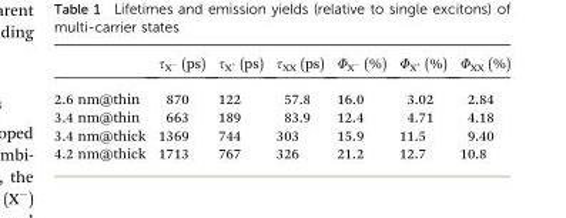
<table><thead><tr><td></td><td>τ<sub>X</sub><sup><sub>–</sub></sup> (ps)</td><td>τ<sub>X</sub><sup><sub>+</sub></sup> (ps)</td><td>τ<sub>XX</sub> (ps)</td><td>Φ<sub>X</sub><sup><sub>–</sub></sup> (%)</td><td>Φ<sub>X</sub><sup><sub>+</sub></sup> (%)</td><td>Φ<sub>XX</sub> (%)</td></tr></thead><tbody><tr><td>2.6 nm@thin</td><td>870</td><td>122</td><td>57.8</td><td>16.0</td><td>3.02</td><td>2.84</td></tr><tr><td>3.4 nm@thin</td><td>663</td><td>189</td><td>83.9</td><td>12.4</td><td>4.71</td><td>4.18</td></tr><tr><td>3.4 nm@thick</td><td>1369</td><td>744</td><td>303</td><td>15.9</td><td>11.5</td><td>9.40</td></tr><tr><td>4.2 nm@thick</td><td>1713</td><td>767</td><td>326</td><td>21.2</td><td>12.7</td><td>10.8</td></tr></tbody></table>